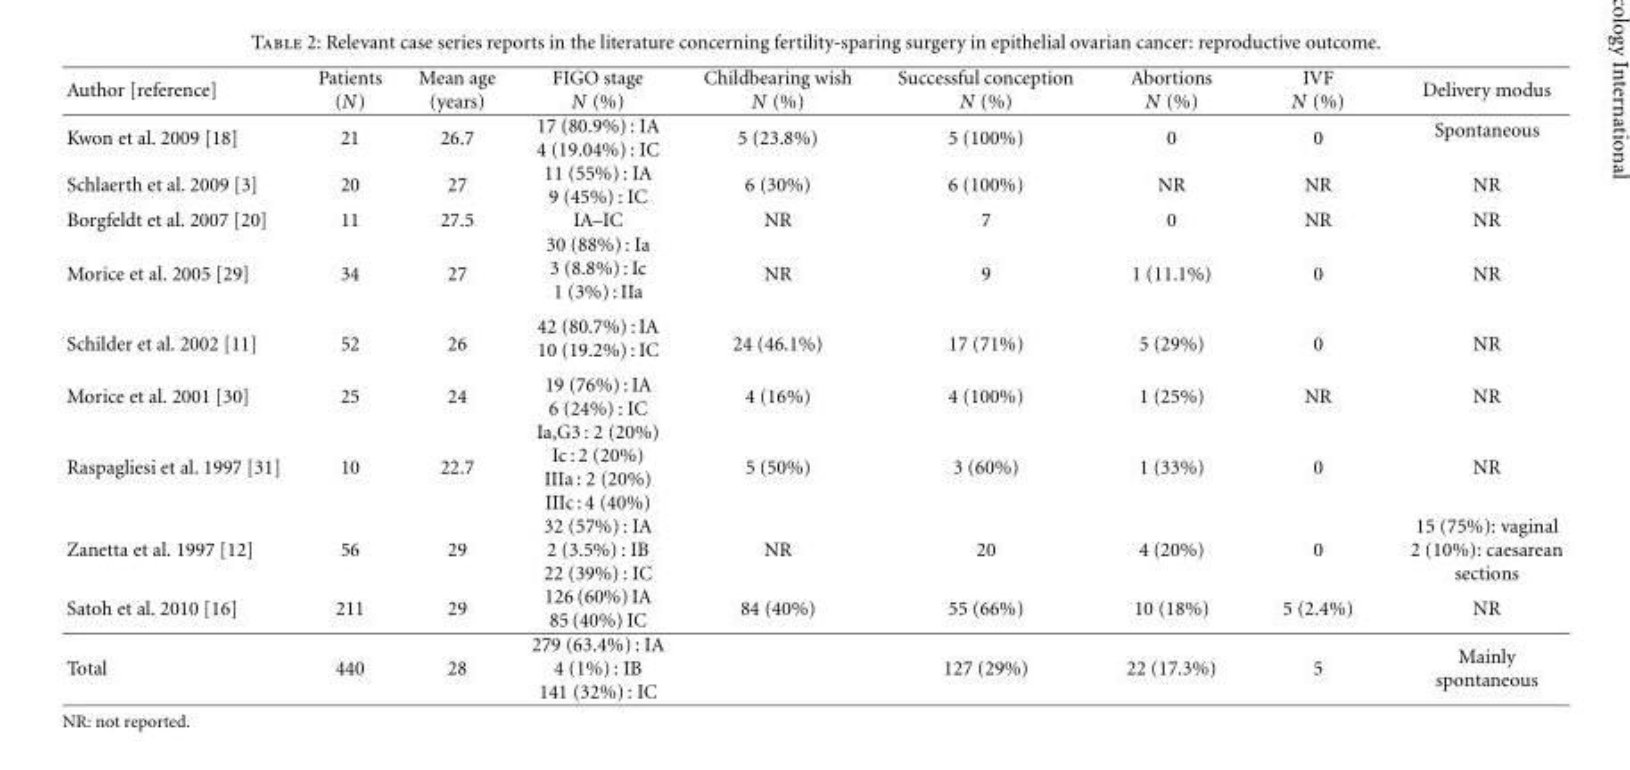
<table><thead><tr><td>Author [reference]</td><td>Patients (N)</td><td>Mean age (years)</td><td>FIGO stage N (%)</td><td>Childbearing wish N (%)</td><td>Successful conception N (%)</td><td>Abortions N (%)</td><td>IVF N (%)</td><td>Delivery modus</td></tr></thead><tbody><tr><td>Kwon et al. 2009 [18]</td><td>21</td><td>26.7</td><td>17 (80.9%) : IA 4 (19.04%) : IC</td><td>5 (23.8%)</td><td>5 (100%)</td><td>0</td><td>0</td><td>Spontaneous</td></tr><tr><td>Schlaerth et al. 2009 [3]</td><td>20</td><td>27</td><td>11 (55%) : IA 9 (45%) : IC</td><td>6 (30%)</td><td>6 (100%)</td><td>NR</td><td>NR</td><td>NR</td></tr><tr><td>Borgfeldt et al. 2007 [20]</td><td>11</td><td>27.5</td><td>IA–IC</td><td>NR</td><td>7</td><td>0</td><td>NR</td><td>NR</td></tr><tr><td>Morice et al. 2005 [29]</td><td>34</td><td>27</td><td>30 (88%) : Ia 3 (8.8%) : Ic 1 (3%) : IIa</td><td>NR</td><td>9</td><td>1 (11.1%)</td><td>0</td><td>NR</td></tr><tr><td>Schilder et al. 2002 [11]</td><td>52</td><td>26</td><td>42 (80.7%) : IA 10 (19.2%) : IC</td><td>24 (46.1%)</td><td>17 (71%)</td><td>5 (29%)</td><td>0</td><td>NR</td></tr><tr><td>Morice et al. 2001 [30]</td><td>25</td><td>24</td><td>19 (76%) : IA 6 (24%) : IC</td><td>4 (16%)</td><td>4 (100%)</td><td>1 (25%)</td><td>NR</td><td>NR</td></tr><tr><td>Raspagliesi et al. 1997 [31]</td><td>10</td><td>22.7</td><td>Ia,G3 : 2 (20%) Ic : 2 (20%) IIIa : 2 (20%) IIIc : 4 (40%)</td><td>5 (50%)</td><td>3 (60%)</td><td>1 (33%)</td><td>0</td><td>NR</td></tr><tr><td>Zanetta et al. 1997 [12]</td><td>56</td><td>29</td><td>32 (57%) : IA 2 (3.5%) : IB 22 (39%) : IC</td><td>NR</td><td>20</td><td>4 (20%)</td><td>0</td><td>15 (75%): vaginal 2 (10%): caesarean sections</td></tr><tr><td>Satoh et al. 2010 [16]</td><td>211</td><td>29</td><td>126 (60%) IA 85 (40%) IC</td><td>84 (40%)</td><td>55 (66%)</td><td>10 (18%)</td><td>5 (2.4%)</td><td>NR</td></tr><tr><td>Total</td><td>440</td><td>28</td><td>279 (63.4%) : IA 4 (1%) : IB 141 (32%) : IC</td><td></td><td>127 (29%)</td><td>22 (17.3%)</td><td>5</td><td>Mainly spontaneous</td></tr></tbody></table>